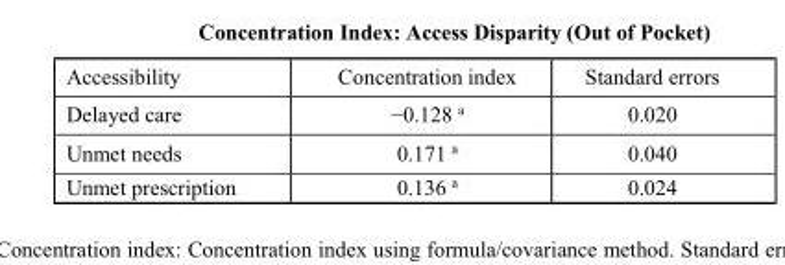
<table><tbody><tr><td>Accessibility</td><td>Concentration index</td><td>Standard errors</td></tr><tr><td>Delayed care</td><td>−0.128 <sup>a</sup></td><td>0.020</td></tr><tr><td>Unmet needs</td><td>0.171 <sup>a</sup></td><td>0.040</td></tr><tr><td>Unmet prescription</td><td>0.136 <sup>a</sup></td><td>0.024</td></tr></tbody></table>